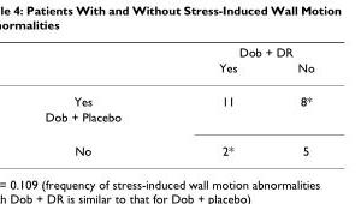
<table><thead><tr><td rowspan="2"></td><td colspan="2">Dob + DR</td></tr><tr><td>Yes</td><td>No</td></tr></thead><tbody><tr><td>Yes</td><td>11</td><td>8*</td></tr><tr><td colspan="3">Dob + Placebo</td></tr><tr><td>No</td><td>2*</td><td>5</td></tr></tbody></table>